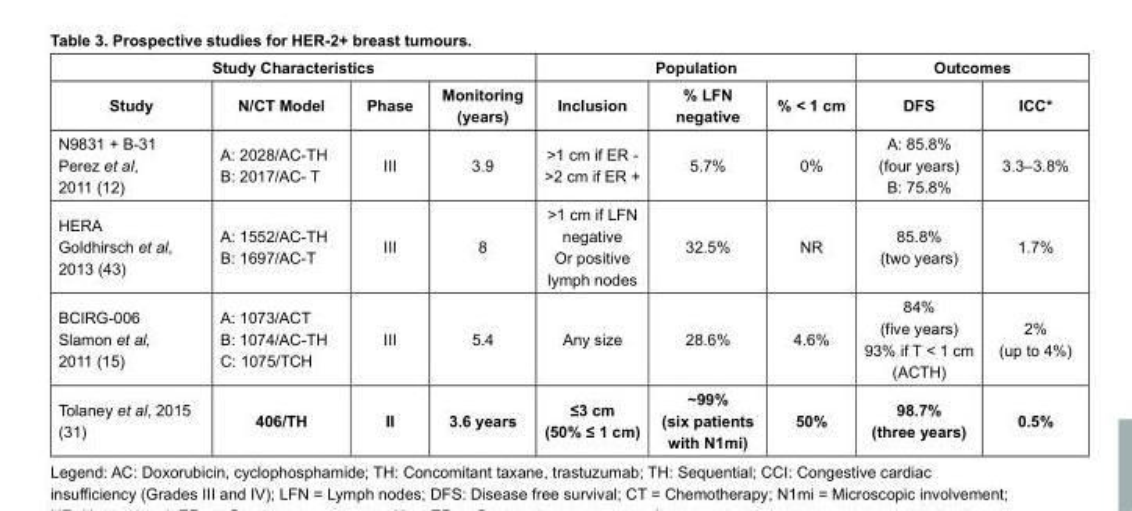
<table><thead><tr><td colspan="4">Study Characteristics</td><td colspan="3">Population</td><td colspan="2">Outcomes</td></tr><tr><td>Study</td><td>N/CT Model</td><td>Phase</td><td>Monitoring (years)</td><td>Inclusion</td><td>% LFN negative</td><td>% &lt; 1 cm</td><td>DFS</td><td>ICC*</td></tr></thead><tbody><tr><td>N9831 + B-31 Perez et al, 2011 (12)</td><td>A: 2028/AC-TH B: 2017/AC- T</td><td>III</td><td>3.9</td><td>&gt;1 cm if ER - &gt;2 cm if ER +</td><td>5.7%</td><td>0%</td><td>A: 85.8% (four years) B: 75.8%</td><td>3.3–3.8%</td></tr><tr><td>HERA Goldhirsch et al, 2013 (43)</td><td>A: 1552/AC-TH B: 1697/AC-T</td><td>III</td><td>8</td><td>&gt;1 cm if LFN negative Or positive lymph nodes</td><td>32.5%</td><td>NR</td><td>85.8% (two years)</td><td>1.7%</td></tr><tr><td>BCIRG-006 Slamon et al, 2011 (15)</td><td>A: 1073/ACT B: 1074/AC-TH C: 1075/TCH</td><td>III</td><td>5.4</td><td>Any size</td><td>28.6%</td><td>4.6%</td><td>84% (five years) 93% if T &lt; 1 cm (ACTH)</td><td>2% (up to 4%)</td></tr><tr><td>Tolaney et al, 2015 (31)</td><td>406/TH</td><td>II</td><td>3.6 years</td><td>≤3 cm (50% ≤ 1 cm)</td><td>~99% (six patients with N1mi)</td><td>50%</td><td>98.7% (three years)</td><td>0.5%</td></tr></tbody></table>